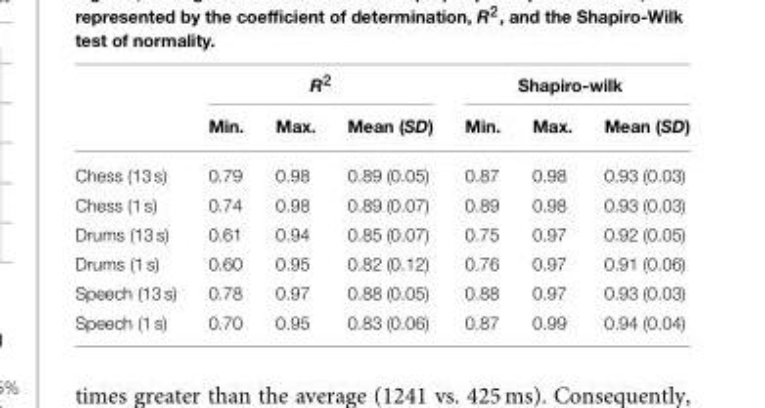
<table><thead><tr><td rowspan="2"></td><td colspan="3">R<sup>2</sup></td><td colspan="3">Shapiro-wilk</td></tr><tr><td>Min.</td><td>Max.</td><td>Mean (SD)</td><td>Min.</td><td>Max.</td><td>Mean (SD)</td></tr></thead><tbody><tr><td>Chess (13 s)</td><td>0.79</td><td>0.98</td><td>0.89 (0.05)</td><td>0.87</td><td>0.98</td><td>0.93 (0.03)</td></tr><tr><td>Chess (1 s)</td><td>0.74</td><td>0.98</td><td>0.89 (0.07)</td><td>0.89</td><td>0.98</td><td>0.93 (0.03)</td></tr><tr><td>Drums (13 s)</td><td>0.61</td><td>0.94</td><td>0.85 (0.07)</td><td>0.75</td><td>0.97</td><td>0.92 (0.05)</td></tr><tr><td>Drums (1 s)</td><td>0.60</td><td>0.95</td><td>0.82 (0.12)</td><td>0.76</td><td>0.97</td><td>0.91 (0.06)</td></tr><tr><td>Speech (13 s)</td><td>0.78</td><td>0.97</td><td>0.88 (0.05)</td><td>0.88</td><td>0.97</td><td>0.93 (0.03)</td></tr><tr><td>Speech (1 s)</td><td>0.70</td><td>0.95</td><td>0.83 (0.06)</td><td>0.87</td><td>0.99</td><td>0.94 (0.04)</td></tr></tbody></table>